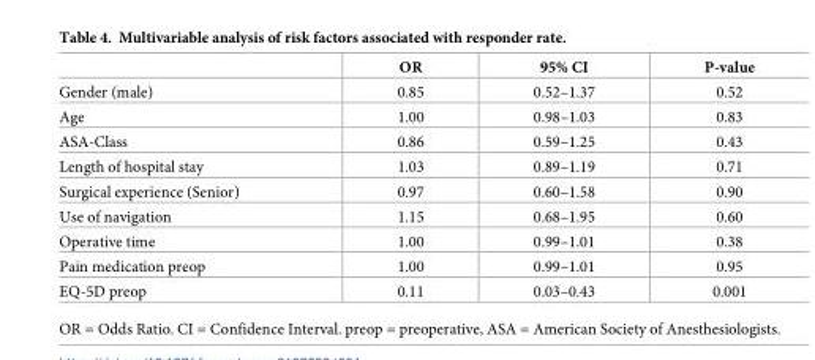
<table><thead><tr><td></td><td>OR</td><td>95% CI</td><td>P-value</td></tr></thead><tbody><tr><td>Gender (male)</td><td>0.85</td><td>0.52–1.37</td><td>0.52</td></tr><tr><td>Age</td><td>1.00</td><td>0.98–1.03</td><td>0.83</td></tr><tr><td>ASA-Class</td><td>0.86</td><td>0.59–1.25</td><td>0.43</td></tr><tr><td>Length of hospital stay</td><td>1.03</td><td>0.89–1.19</td><td>0.71</td></tr><tr><td>Surgical experience (Senior)</td><td>0.97</td><td>0.60–1.58</td><td>0.90</td></tr><tr><td>Use of navigation</td><td>1.15</td><td>0.68–1.95</td><td>0.60</td></tr><tr><td>Operative time</td><td>1.00</td><td>0.99–1.01</td><td>0.38</td></tr><tr><td>Pain medication preop</td><td>1.00</td><td>0.99–1.01</td><td>0.95</td></tr><tr><td>EQ-5D preop</td><td>0.11</td><td>0.03–0.43</td><td>0.001</td></tr></tbody></table>